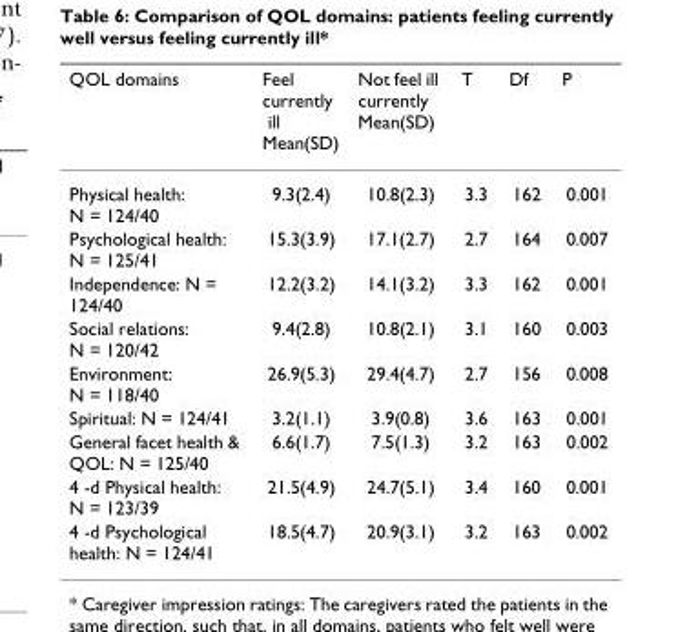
<table><thead><tr><td>QOL domains</td><td>Feel currently ill Mean(SD)</td><td>Not feel ill currently Mean(SD)</td><td>T</td><td>Df</td><td>P</td></tr></thead><tbody><tr><td>Physical health: N = 124/40</td><td>9.3(2.4)</td><td>10.8(2.3)</td><td>3.3</td><td>162</td><td>0.001</td></tr><tr><td>Psychological health: N = 125/41</td><td>15.3(3.9)</td><td>17.1(2.7)</td><td>2.7</td><td>164</td><td>0.007</td></tr><tr><td>Independence: N = 124/40</td><td>12.2(3.2)</td><td>14.1(3.2)</td><td>3.3</td><td>162</td><td>0.001</td></tr><tr><td>Social relations: N = 120/42</td><td>9.4(2.8)</td><td>10.8(2.1)</td><td>3.1</td><td>160</td><td>0.003</td></tr><tr><td>Environment: N = 118/40</td><td>26.9(5.3)</td><td>29.4(4.7)</td><td>2.7</td><td>156</td><td>0.008</td></tr><tr><td>Spiritual: N = 124/41</td><td>3.2(1.1)</td><td>3.9(0.8)</td><td>3.6</td><td>163</td><td>0.001</td></tr><tr><td>General facet health &amp; QOL: N = 125/40</td><td>6.6(1.7)</td><td>7.5(1.3)</td><td>3.2</td><td>163</td><td>0.002</td></tr><tr><td>4 -d Physical health: N = 123/39</td><td>21.5(4.9)</td><td>24.7(5.1)</td><td>3.4</td><td>160</td><td>0.001</td></tr><tr><td>4 -d Psychological health: N = 124/41</td><td>18.5(4.7)</td><td>20.9(3.1)</td><td>3.2</td><td>163</td><td>0.002</td></tr></tbody></table>